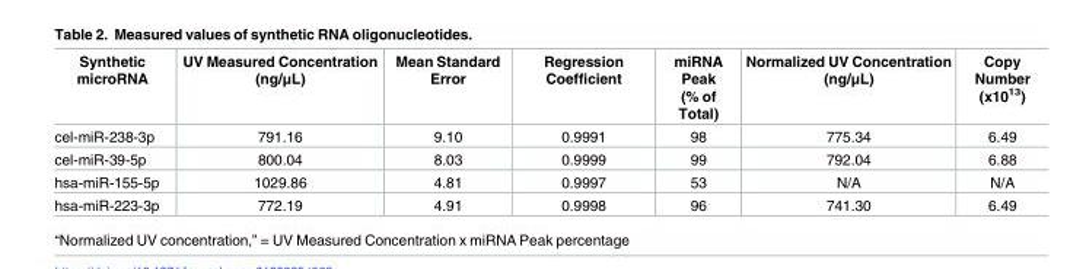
<table><thead><tr><td>Synthetic microRNA</td><td>UV Measured Concentration (ng/μL)</td><td>Mean Standard Error</td><td>Regression Coefficient</td><td>miRNA Peak (% of Total)</td><td>Normalized UV Concentration (ng/μL)</td><td>Copy Number (x10<sup>13</sup>)</td></tr></thead><tbody><tr><td>cel-miR-238-3p</td><td>791.16</td><td>9.10</td><td>0.9991</td><td>98</td><td>775.34</td><td>6.49</td></tr><tr><td>cel-miR-39-5p</td><td>800.04</td><td>8.03</td><td>0.9999</td><td>99</td><td>792.04</td><td>6.88</td></tr><tr><td>hsa-miR-155-5p</td><td>1029.86</td><td>4.81</td><td>0.9997</td><td>53</td><td>N/A</td><td>N/A</td></tr><tr><td>hsa-miR-223-3p</td><td>772.19</td><td>4.91</td><td>0.9998</td><td>96</td><td>741.30</td><td>6.49</td></tr></tbody></table>